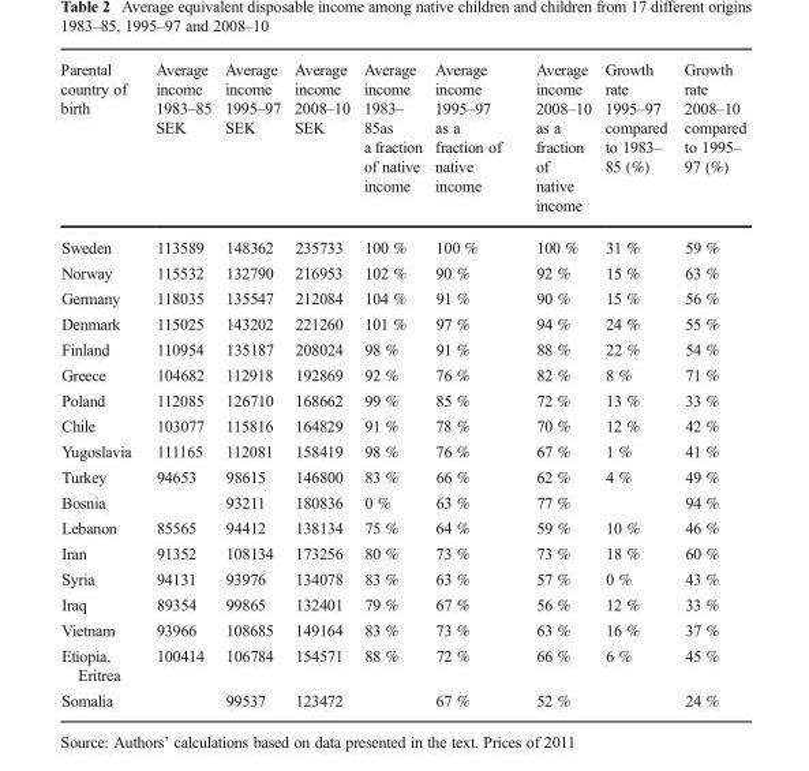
<table><thead><tr><td>Parental country of birth</td><td>Average income 1983–85 SEK</td><td>Average income 1995–97 SEK</td><td>Average income 2008–10 SEK</td><td>Average income 1983– 85as a fraction of native income</td><td>Average income 1995–97 as a fraction of native income</td><td>Average income 2008–10 as a fraction of native income</td><td>Growth rate 1995–97 compared to 1983– 85 (%)</td><td>Growth rate 2008–10 compared to 1995– 97 (%)</td></tr></thead><tbody><tr><td>Sweden</td><td>113589</td><td>148362</td><td>235733</td><td>100 %</td><td>100 %</td><td>100 %</td><td>31 %</td><td>59 %</td></tr><tr><td>Norway</td><td>115532</td><td>132790</td><td>216953</td><td>102 %</td><td>90 %</td><td>92 %</td><td>15 %</td><td>63 %</td></tr><tr><td>Germany</td><td>118035</td><td>135547</td><td>212084</td><td>104 %</td><td>91 %</td><td>90 %</td><td>15 %</td><td>56 %</td></tr><tr><td>Denmark</td><td>115025</td><td>143202</td><td>221260</td><td>101 %</td><td>97 %</td><td>94 %</td><td>24 %</td><td>55 %</td></tr><tr><td>Finland</td><td>110954</td><td>135187</td><td>208024</td><td>98 %</td><td>91 %</td><td>88 %</td><td>22 %</td><td>54 %</td></tr><tr><td>Greece</td><td>104682</td><td>112918</td><td>192869</td><td>92 %</td><td>76 %</td><td>82 %</td><td>8 %</td><td>71 %</td></tr><tr><td>Poland</td><td>112085</td><td>126710</td><td>168662</td><td>99 %</td><td>85 %</td><td>72 %</td><td>13 %</td><td>33 %</td></tr><tr><td>Chile</td><td>103077</td><td>115816</td><td>164829</td><td>91 %</td><td>78 %</td><td>70 %</td><td>12 %</td><td>42 %</td></tr><tr><td>Yugoslavia</td><td>111165</td><td>112081</td><td>158419</td><td>98 %</td><td>76 %</td><td>67 %</td><td>1 %</td><td>41 %</td></tr><tr><td>Turkey</td><td>94653</td><td>98615</td><td>146800</td><td>83 %</td><td>66 %</td><td>62 %</td><td>4 %</td><td>49 %</td></tr><tr><td>Bosnia</td><td></td><td>93211</td><td>180836</td><td>0 %</td><td>63 %</td><td>77 %</td><td></td><td>94 %</td></tr><tr><td>Lebanon</td><td>85565</td><td>94412</td><td>138134</td><td>75 %</td><td>64 %</td><td>59 %</td><td>10 %</td><td>46 %</td></tr><tr><td>Iran</td><td>91352</td><td>108134</td><td>173256</td><td>80 %</td><td>73 %</td><td>73 %</td><td>18 %</td><td>60 %</td></tr><tr><td>Syria</td><td>94131</td><td>93976</td><td>134078</td><td>83 %</td><td>63 %</td><td>57 %</td><td>0 %</td><td>43 %</td></tr><tr><td>Iraq</td><td>89354</td><td>99865</td><td>132401</td><td>79 %</td><td>67 %</td><td>56 %</td><td>12 %</td><td>33 %</td></tr><tr><td>Vietnam</td><td>93966</td><td>108685</td><td>149164</td><td>83 %</td><td>73 %</td><td>63 %</td><td>16 %</td><td>37 %</td></tr><tr><td>Etiopia, Eritrea</td><td>100414</td><td>106784</td><td>154571</td><td>88 %</td><td>72 %</td><td>66 %</td><td>6 %</td><td>45 %</td></tr><tr><td>Somalia</td><td></td><td>99537</td><td>123472</td><td></td><td>67 %</td><td>52 %</td><td></td><td>24 %</td></tr></tbody></table>